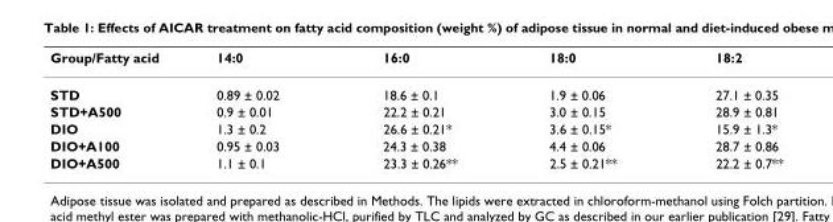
<table><thead><tr><td>Group/Fatty acid</td><td>14:0</td><td>16:0</td><td>18:0</td><td>18:2</td></tr></thead><tbody><tr><td>STD</td><td>0.89 ± 0.02</td><td>18.6 ± 0.1</td><td>1.9 ± 0.06</td><td>27.1 ± 0.35</td></tr><tr><td>STD+A500</td><td>0.9 ± 0.01</td><td>22.2 ± 0.21</td><td>3.0 ± 0.15</td><td>28.9 ± 0.81</td></tr><tr><td>DIO</td><td>1.3 ± 0.2</td><td>26.6 ± 0.21*</td><td>3.6 ± 0.15*</td><td>15.9 ± 1.3*</td></tr><tr><td>DIO+A100</td><td>0.95 ± 0.03</td><td>24.3 ± 0.38</td><td>4.4 ± 0.06</td><td>28.7 ± 0.86</td></tr><tr><td>DIO+A500</td><td>1.1 ± 0.1</td><td>23.3 ± 0.26**</td><td>2.5 ± 0.21**</td><td>22.2 ± 0.7**</td></tr></tbody></table>